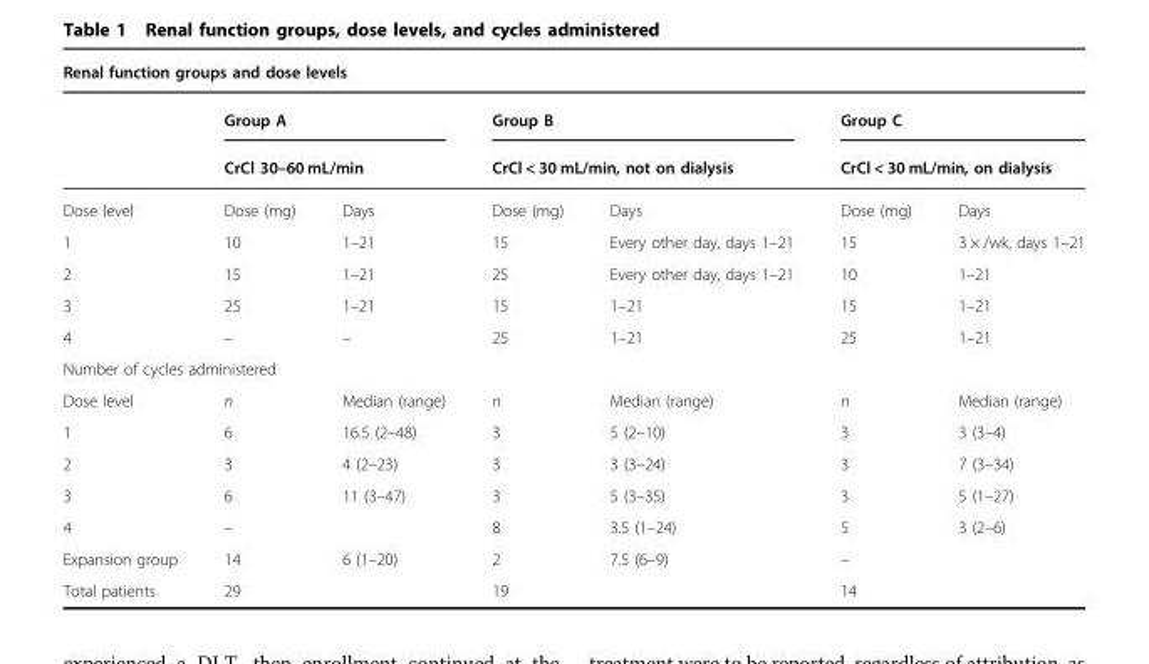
<table><thead><tr><td colspan="7">Renal function groups and dose levels</td></tr><tr><td rowspan="3">Dose level</td><td rowspan="2" colspan="2">Group A CrCl 30–60 mL/min</td><td rowspan="2" colspan="2">Group B CrCl &lt; 30 mL/min, not on dialysis</td><td rowspan="2" colspan="2">Group C CrCl &lt; 30 mL/min, on dialysis</td></tr><tr></tr><tr><td>Dose (mg)</td><td>Days</td><td>Dose (mg)</td><td>Days</td><td>Dose (mg)</td><td>Days</td></tr></thead><tbody><tr><td>1</td><td>10</td><td>1–21</td><td>15</td><td>Every other day, days 1–21</td><td>15</td><td>3 × /wk, days 1–21</td></tr><tr><td>2</td><td>15</td><td>1–21</td><td>25</td><td>Every other day, days 1–21</td><td>10</td><td>1–21</td></tr><tr><td>3</td><td>25</td><td>1–21</td><td>15</td><td>1–21</td><td>15</td><td>1–21</td></tr><tr><td>4</td><td>–</td><td>–</td><td>25</td><td>1–21</td><td>25</td><td>1–21</td></tr><tr><td colspan="7">Number of cycles administered</td></tr><tr><td>Dose level</td><td>n</td><td>Median (range)</td><td>n</td><td>Median (range)</td><td>n</td><td>Median (range)</td></tr><tr><td>1</td><td>6</td><td>16.5 (2–48)</td><td>3</td><td>5 (2–10)</td><td>3</td><td>3 (3–4)</td></tr><tr><td>2</td><td>3</td><td>4 (2–23)</td><td>3</td><td>3 (3–24)</td><td>3</td><td>7 (3–34)</td></tr><tr><td>3</td><td>6</td><td>11 (3–47)</td><td>3</td><td>5 (3–35)</td><td>3</td><td>5 (1–27)</td></tr><tr><td>4</td><td>–</td><td></td><td>8</td><td>3.5 (1–24)</td><td>5</td><td>3 (2–6)</td></tr><tr><td>Expansion group</td><td>14</td><td>6 (1–20)</td><td>2</td><td>7.5 (6–9)</td><td>–</td><td></td></tr><tr><td>Total patients</td><td>29</td><td></td><td>19</td><td></td><td>14</td><td></td></tr></tbody></table>